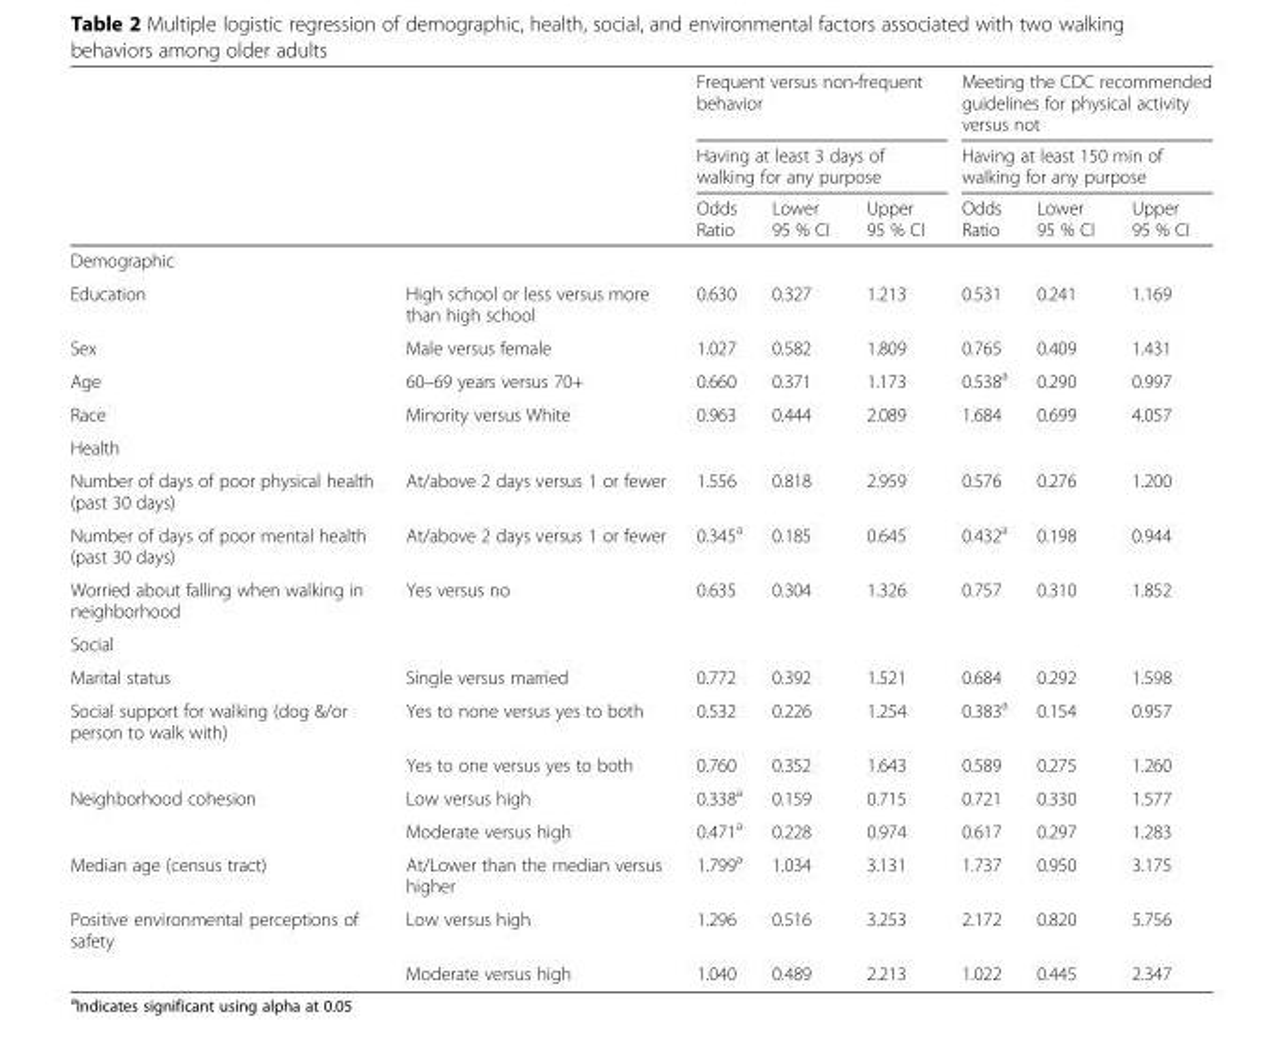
<table><thead><tr><td rowspan="3"></td><td rowspan="3"></td><td rowspan="2" colspan="3">Frequent versus non-frequent behavior Having at least 3 days of walking for any purpose</td><td rowspan="2" colspan="3">Meeting the CDC recommended guidelines for physical activity versus not Having at least 150 min of walking for any purpose</td></tr><tr></tr><tr><td>Odds Ratio</td><td>Lower 95 % CI</td><td>Upper 95 % CI</td><td>Odds Ratio</td><td>Lower 95 % CI</td><td>Upper 95 % CI</td></tr></thead><tbody><tr><td colspan="8">Demographic</td></tr><tr><td>Education</td><td>High school or less versus more than high school</td><td>0.630</td><td>0.327</td><td>1.213</td><td>0.531</td><td>0.241</td><td>1.169</td></tr><tr><td>Sex</td><td>Male versus female</td><td>1.027</td><td>0.582</td><td>1.809</td><td>0.765</td><td>0.409</td><td>1.431</td></tr><tr><td>Age</td><td>60–69 years versus 70+</td><td>0.660</td><td>0.371</td><td>1.173</td><td>0.538<sup>a</sup></td><td>0.290</td><td>0.997</td></tr><tr><td>Race</td><td>Minority versus White</td><td>0.963</td><td>0.444</td><td>2.089</td><td>1.684</td><td>0.699</td><td>4.057</td></tr><tr><td colspan="8">Health</td></tr><tr><td>Number of days of poor physical health (past 30 days)</td><td>At/above 2 days versus 1 or fewer</td><td>1.556</td><td>0.818</td><td>2.959</td><td>0.576</td><td>0.276</td><td>1.200</td></tr><tr><td>Number of days of poor mental health (past 30 days)</td><td>At/above 2 days versus 1 or fewer</td><td>0.345<sup>a</sup></td><td>0.185</td><td>0.645</td><td>0.432<sup>a</sup></td><td>0.198</td><td>0.944</td></tr><tr><td>Worried about falling when walking in neighborhood</td><td>Yes versus no</td><td>0.635</td><td>0.304</td><td>1.326</td><td>0.757</td><td>0.310</td><td>1.852</td></tr><tr><td colspan="8">Social</td></tr><tr><td>Marital status</td><td>Single versus married</td><td>0.772</td><td>0.392</td><td>1.521</td><td>0.684</td><td>0.292</td><td>1.598</td></tr><tr><td rowspan="2">Social support for walking (dog &amp;/or person to walk with)</td><td>Yes to none versus yes to both</td><td>0.532</td><td>0.226</td><td>1.254</td><td>0.383<sup>a</sup></td><td>0.154</td><td>0.957</td></tr><tr><td>Yes to one versus yes to both</td><td>0.760</td><td>0.352</td><td>1.643</td><td>0.589</td><td>0.275</td><td>1.260</td></tr><tr><td rowspan="2">Neighborhood cohesion</td><td>Low versus high</td><td>0.338<sup>a</sup></td><td>0.159</td><td>0.715</td><td>0.721</td><td>0.330</td><td>1.577</td></tr><tr><td>Moderate versus high</td><td>0.471<sup>a</sup></td><td>0.228</td><td>0.974</td><td>0.617</td><td>0.297</td><td>1.283</td></tr><tr><td>Median age (census tract)</td><td>At/Lower than the median versus higher</td><td>1.799<sup>a</sup></td><td>1.034</td><td>3.131</td><td>1.737</td><td>0.950</td><td>3.175</td></tr><tr><td rowspan="2">Positive environmental perceptions of safety</td><td>Low versus high</td><td>1.296</td><td>0.516</td><td>3.253</td><td>2.172</td><td>0.820</td><td>5.756</td></tr><tr><td>Moderate versus high</td><td>1.040</td><td>0.489</td><td>2.213</td><td>1.022</td><td>0.445</td><td>2.347</td></tr></tbody></table>